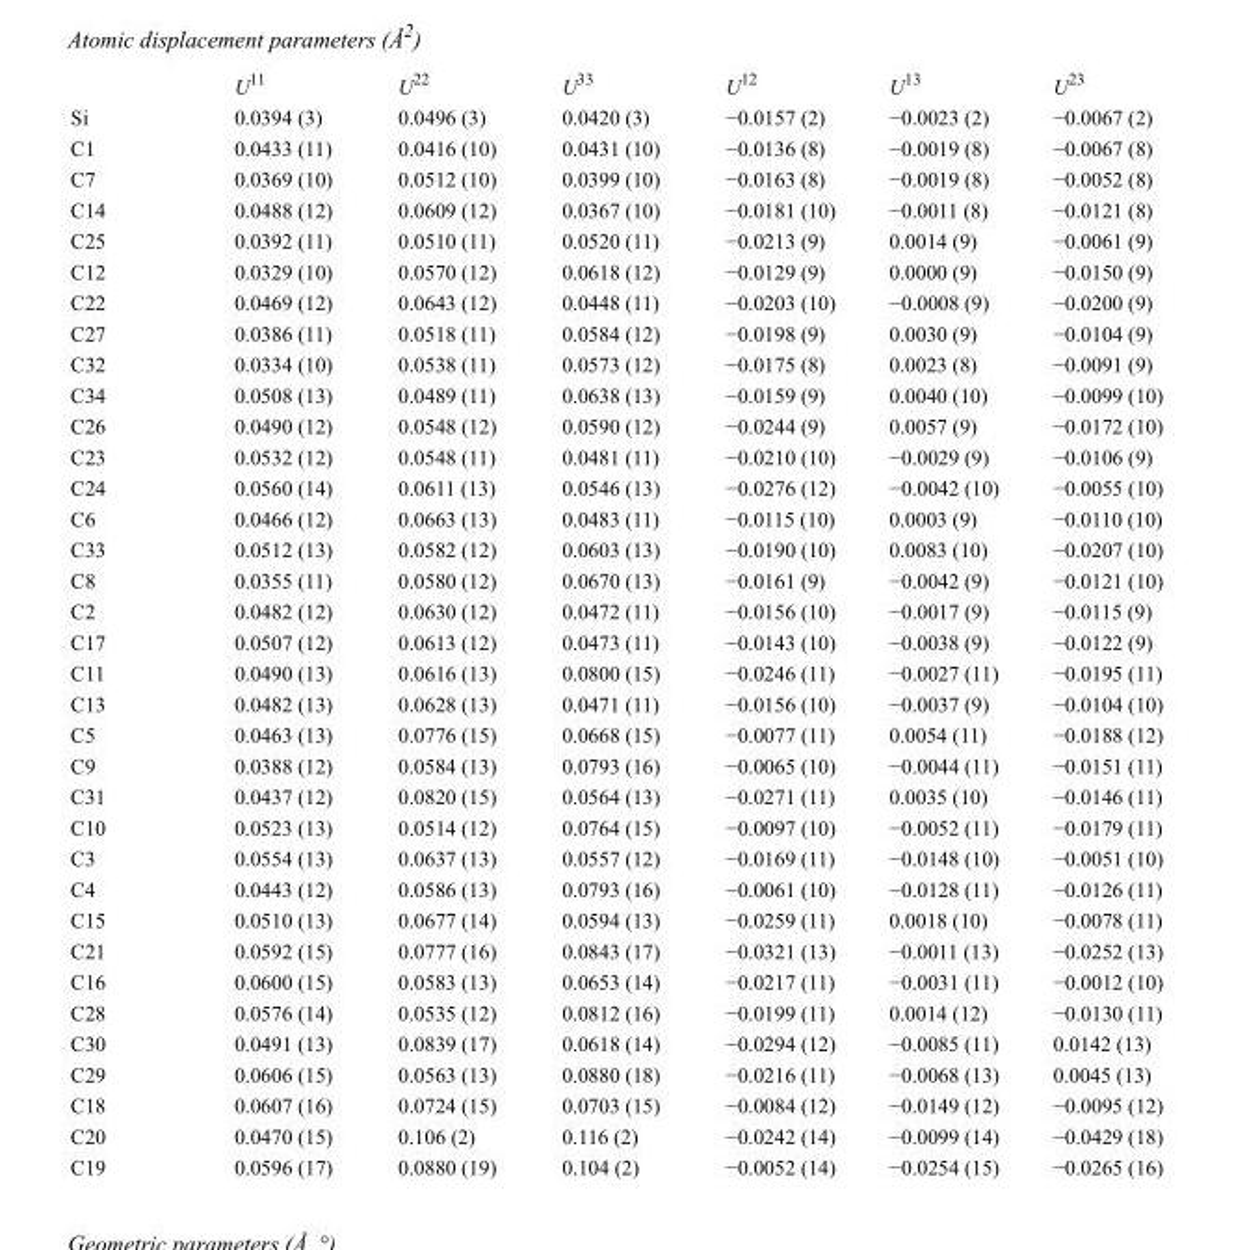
<table><thead><tr><td></td><td>U<sup>11</sup></td><td>U<sup>22</sup></td><td>U<sup>33</sup></td><td>U<sup>12</sup></td><td>U<sup>13</sup></td><td>U<sup>23</sup></td></tr></thead><tbody><tr><td>Si</td><td>0.0394 (3)</td><td>0.0496 (3)</td><td>0.0420 (3)</td><td>−0.0157 (2)</td><td>−0.0023 (2)</td><td>−0.0067 (2)</td></tr><tr><td>C1</td><td>0.0433 (11)</td><td>0.0416 (10)</td><td>0.0431 (10)</td><td>−0.0136 (8)</td><td>−0.0019 (8)</td><td>−0.0067 (8)</td></tr><tr><td>C7</td><td>0.0369 (10)</td><td>0.0512 (10)</td><td>0.0399 (10)</td><td>−0.0163 (8)</td><td>−0.0019 (8)</td><td>−0.0052 (8)</td></tr><tr><td>C14</td><td>0.0488 (12)</td><td>0.0609 (12)</td><td>0.0367 (10)</td><td>−0.0181 (10)</td><td>−0.0011 (8)</td><td>−0.0121 (8)</td></tr><tr><td>C25</td><td>0.0392 (11)</td><td>0.0510 (11)</td><td>0.0520 (11)</td><td>−0.0213 (9)</td><td>0.0014 (9)</td><td>−0.0061 (9)</td></tr><tr><td>C12</td><td>0.0329 (10)</td><td>0.0570 (12)</td><td>0.0618 (12)</td><td>−0.0129 (9)</td><td>0.0000 (9)</td><td>−0.0150 (9)</td></tr><tr><td>C22</td><td>0.0469 (12)</td><td>0.0643 (12)</td><td>0.0448 (11)</td><td>−0.0203 (10)</td><td>−0.0008 (9)</td><td>−0.0200 (9)</td></tr><tr><td>C27</td><td>0.0386 (11)</td><td>0.0518 (11)</td><td>0.0584 (12)</td><td>−0.0198 (9)</td><td>0.0030 (9)</td><td>−0.0104 (9)</td></tr><tr><td>C32</td><td>0.0334 (10)</td><td>0.0538 (11)</td><td>0.0573 (12)</td><td>−0.0175 (8)</td><td>0.0023 (8)</td><td>−0.0091 (9)</td></tr><tr><td>C34</td><td>0.0508 (13)</td><td>0.0489 (11)</td><td>0.0638 (13)</td><td>−0.0159 (9)</td><td>0.0040 (10)</td><td>−0.0099 (10)</td></tr><tr><td>C26</td><td>0.0490 (12)</td><td>0.0548 (12)</td><td>0.0590 (12)</td><td>−0.0244 (9)</td><td>0.0057 (9)</td><td>−0.0172 (10)</td></tr><tr><td>C23</td><td>0.0532 (12)</td><td>0.0548 (11)</td><td>0.0481 (11)</td><td>−0.0210 (10)</td><td>−0.0029 (9)</td><td>−0.0106 (9)</td></tr><tr><td>C24</td><td>0.0560 (14)</td><td>0.0611 (13)</td><td>0.0546 (13)</td><td>−0.0276 (12)</td><td>−0.0042 (10)</td><td>−0.0055 (10)</td></tr><tr><td>C6</td><td>0.0466 (12)</td><td>0.0663 (13)</td><td>0.0483 (11)</td><td>−0.0115 (10)</td><td>0.0003 (9)</td><td>−0.0110 (10)</td></tr><tr><td>C33</td><td>0.0512 (13)</td><td>0.0582 (12)</td><td>0.0603 (13)</td><td>−0.0190 (10)</td><td>0.0083 (10)</td><td>−0.0207 (10)</td></tr><tr><td>C8</td><td>0.0355 (11)</td><td>0.0580 (12)</td><td>0.0670 (13)</td><td>−0.0161 (9)</td><td>−0.0042 (9)</td><td>−0.0121 (10)</td></tr><tr><td>C2</td><td>0.0482 (12)</td><td>0.0630 (12)</td><td>0.0472 (11)</td><td>−0.0156 (10)</td><td>−0.0017 (9)</td><td>−0.0115 (9)</td></tr><tr><td>C17</td><td>0.0507 (12)</td><td>0.0613 (12)</td><td>0.0473 (11)</td><td>−0.0143 (10)</td><td>−0.0038 (9)</td><td>−0.0122 (9)</td></tr><tr><td>C11</td><td>0.0490 (13)</td><td>0.0616 (13)</td><td>0.0800 (15)</td><td>−0.0246 (11)</td><td>−0.0027 (11)</td><td>−0.0195 (11)</td></tr><tr><td>C13</td><td>0.0482 (13)</td><td>0.0628 (13)</td><td>0.0471 (11)</td><td>−0.0156 (10)</td><td>−0.0037 (9)</td><td>−0.0104 (10)</td></tr><tr><td>C5</td><td>0.0463 (13)</td><td>0.0776 (15)</td><td>0.0668 (15)</td><td>−0.0077 (11)</td><td>0.0054 (11)</td><td>−0.0188 (12)</td></tr><tr><td>C9</td><td>0.0388 (12)</td><td>0.0584 (13)</td><td>0.0793 (16)</td><td>−0.0065 (10)</td><td>−0.0044 (11)</td><td>−0.0151 (11)</td></tr><tr><td>C31</td><td>0.0437 (12)</td><td>0.0820 (15)</td><td>0.0564 (13)</td><td>−0.0271 (11)</td><td>0.0035 (10)</td><td>−0.0146 (11)</td></tr><tr><td>C10</td><td>0.0523 (13)</td><td>0.0514 (12)</td><td>0.0764 (15)</td><td>−0.0097 (10)</td><td>−0.0052 (11)</td><td>−0.0179 (11)</td></tr><tr><td>C3</td><td>0.0554 (13)</td><td>0.0637 (13)</td><td>0.0557 (12)</td><td>−0.0169 (11)</td><td>−0.0148 (10)</td><td>−0.0051 (10)</td></tr><tr><td>C4</td><td>0.0443 (12)</td><td>0.0586 (13)</td><td>0.0793 (16)</td><td>−0.0061 (10)</td><td>−0.0128 (11)</td><td>−0.0126 (11)</td></tr><tr><td>C15</td><td>0.0510 (13)</td><td>0.0677 (14)</td><td>0.0594 (13)</td><td>−0.0259 (11)</td><td>0.0018 (10)</td><td>−0.0078 (11)</td></tr><tr><td>C21</td><td>0.0592 (15)</td><td>0.0777 (16)</td><td>0.0843 (17)</td><td>−0.0321 (13)</td><td>−0.0011 (13)</td><td>−0.0252 (13)</td></tr><tr><td>C16</td><td>0.0600 (15)</td><td>0.0583 (13)</td><td>0.0653 (14)</td><td>−0.0217 (11)</td><td>−0.0031 (11)</td><td>−0.0012 (10)</td></tr><tr><td>C28</td><td>0.0576 (14)</td><td>0.0535 (12)</td><td>0.0812 (16)</td><td>−0.0199 (11)</td><td>0.0014 (12)</td><td>−0.0130 (11)</td></tr><tr><td>C30</td><td>0.0491 (13)</td><td>0.0839 (17)</td><td>0.0618 (14)</td><td>−0.0294 (12)</td><td>−0.0085 (11)</td><td>0.0142 (13)</td></tr><tr><td>C29</td><td>0.0606 (15)</td><td>0.0563 (13)</td><td>0.0880 (18)</td><td>−0.0216 (11)</td><td>−0.0068 (13)</td><td>0.0045 (13)</td></tr><tr><td>C18</td><td>0.0607 (16)</td><td>0.0724 (15)</td><td>0.0703 (15)</td><td>−0.0084 (12)</td><td>−0.0149 (12)</td><td>−0.0095 (12)</td></tr><tr><td>C20</td><td>0.0470 (15)</td><td>0.106 (2)</td><td>0.116 (2)</td><td>−0.0242 (14)</td><td>−0.0099 (14)</td><td>−0.0429 (18)</td></tr><tr><td>C19</td><td>0.0596 (17)</td><td>0.0880 (19)</td><td>0.104 (2)</td><td>−0.0052 (14)</td><td>−0.0254 (15)</td><td>−0.0265 (16)</td></tr></tbody></table>